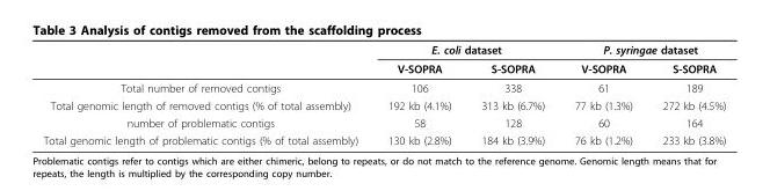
<table><thead><tr><td rowspan="2"></td><td colspan="2">E. coli dataset</td><td colspan="2">P. syringae dataset</td></tr><tr><td>V-SOPRA</td><td>S-SOPRA</td><td>V-SOPRA</td><td>S-SOPRA</td></tr></thead><tbody><tr><td>Total number of removed contigs</td><td>106</td><td>338</td><td>61</td><td>189</td></tr><tr><td>Total genomic length of removed contigs (% of total assembly)</td><td>192 kb (4.1%)</td><td>313 kb (6.7%)</td><td>77 kb (1.3%)</td><td>272 kb (4.5%)</td></tr><tr><td>number of problematic contigs</td><td>58</td><td>128</td><td>60</td><td>164</td></tr><tr><td>Total genomic length of problematic contigs (% of total assembly)</td><td>130 kb (2.8%)</td><td>184 kb (3.9%)</td><td>76 kb (1.2%)</td><td>233 kb (3.8%)</td></tr></tbody></table>